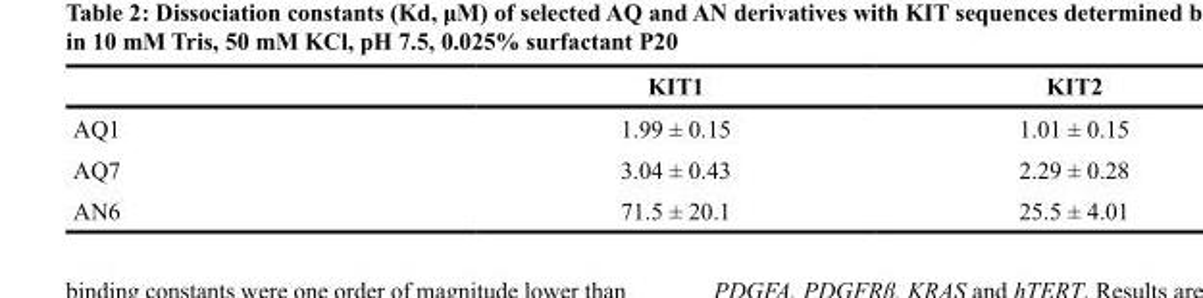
<table><thead><tr><td></td><td>KIT1</td><td>KIT2</td></tr></thead><tbody><tr><td>AQ1</td><td>1.99 ± 0.15</td><td>1.01 ± 0.15</td></tr><tr><td>AQ7</td><td>3.04 ± 0.43</td><td>2.29 ± 0.28</td></tr><tr><td>AN6</td><td>71.5 ± 20.1</td><td>25.5 ± 4.01</td></tr></tbody></table>